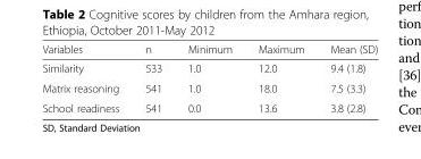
<table><thead><tr><td>Variables</td><td>n</td><td>Minimum</td><td>Maximum</td><td>Mean (SD)</td></tr></thead><tbody><tr><td>Similarity</td><td>533</td><td>1.0</td><td>12.0</td><td>9.4 (1.8)</td></tr><tr><td>Matrix reasoning</td><td>541</td><td>1.0</td><td>18.0</td><td>7.5 (3.3)</td></tr><tr><td>School readiness</td><td>541</td><td>0.0</td><td>13.6</td><td>3.8 (2.8)</td></tr></tbody></table>